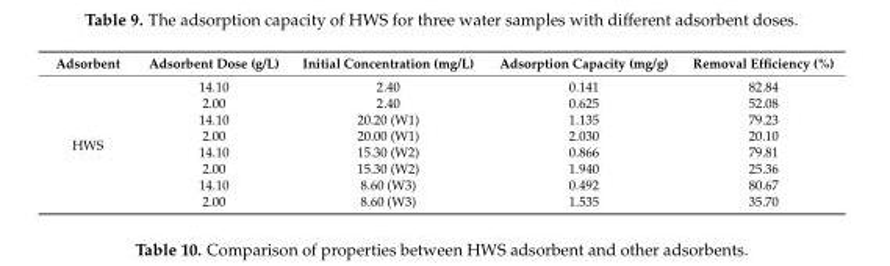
<table><thead><tr><td>Adsorbent</td><td>Adsorbent Dose (g/L)</td><td>Initial Concentration (mg/L)</td><td>Adsorption Capacity (mg/g)</td><td>Removal Efficiency (%)</td></tr></thead><tbody><tr><td rowspan="8">HWS</td><td>14.10</td><td>2.40</td><td>0.141</td><td>82.84</td></tr><tr><td>2.00</td><td>2.40</td><td>0.625</td><td>52.08</td></tr><tr><td>14.10</td><td>20.20 (W1)</td><td>1.135</td><td>79.23</td></tr><tr><td>2.00</td><td>20.00 (W1)</td><td>2.030</td><td>20.10</td></tr><tr><td>14.10</td><td>15.30 (W2)</td><td>0.866</td><td>79.81</td></tr><tr><td>2.00</td><td>15.30 (W2)</td><td>1.940</td><td>25.36</td></tr><tr><td>14.10</td><td>8.60 (W3)</td><td>0.492</td><td>80.67</td></tr><tr><td>2.00</td><td>8.60 (W3)</td><td>1.535</td><td>35.70</td></tr></tbody></table>